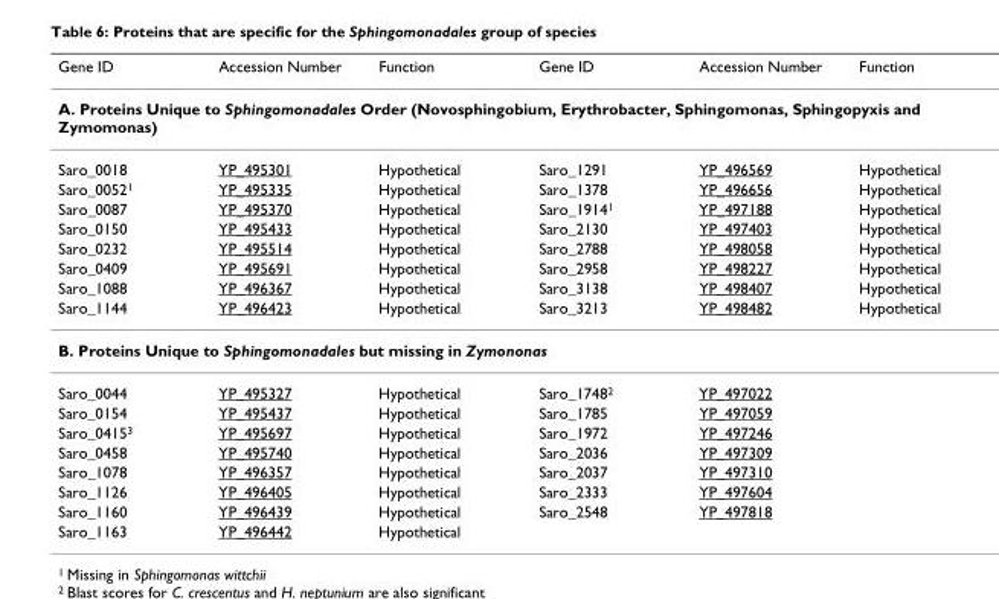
<table><thead><tr><td>Gene ID</td><td>Accession Number</td><td>Function</td><td>Gene ID</td><td>Accession Number</td><td>Function</td></tr></thead><tbody><tr><td colspan="6">A. Proteins Unique to Sphingomonadales Order (Novosphingobium, Erythrobacter, Sphingomonas, Sphingopyxis and Zymomonas)</td></tr><tr><td>Saro_0018</td><td>YP_495301</td><td>Hypothetical</td><td>Saro_1291</td><td>YP_496569</td><td>Hypothetical</td></tr><tr><td>Saro_0052<sup>1</sup></td><td>YP_495335</td><td>Hypothetical</td><td>Saro_1378</td><td>YP_496656</td><td>Hypothetical</td></tr><tr><td>Saro_0087</td><td>YP_495370</td><td>Hypothetical</td><td>Saro_1914<sup>1</sup></td><td>YP_497188</td><td>Hypothetical</td></tr><tr><td>Saro_0150</td><td>YP_495433</td><td>Hypothetical</td><td>Saro_2130</td><td>YP_497403</td><td>Hypothetical</td></tr><tr><td>Saro_0232</td><td>YP_495514</td><td>Hypothetical</td><td>Saro_2788</td><td>YP_498058</td><td>Hypothetical</td></tr><tr><td>Saro_0409</td><td>YP_495691</td><td>Hypothetical</td><td>Saro_2958</td><td>YP_498227</td><td>Hypothetical</td></tr><tr><td>Saro_1088</td><td>YP_496367</td><td>Hypothetical</td><td>Saro_3138</td><td>YP_498407</td><td>Hypothetical</td></tr><tr><td>Saro_1144</td><td>YP_496423</td><td>Hypothetical</td><td>Saro_3213</td><td>YP_498482</td><td>Hypothetical</td></tr><tr><td colspan="6">B. Proteins Unique to Sphingomonadales but missing in Zymononas</td></tr><tr><td>Saro_0044</td><td>YP_495327</td><td>Hypothetical</td><td>Saro_1748<sup>2</sup></td><td>YP_497022</td><td></td></tr><tr><td>Saro_0154</td><td>YP_495437</td><td>Hypothetical</td><td>Saro_1785</td><td>YP_497059</td><td></td></tr><tr><td>Saro_0415<sup>3</sup></td><td>YP_495697</td><td>Hypothetical</td><td>Saro_1972</td><td>YP_497246</td><td></td></tr><tr><td>Saro_0458</td><td>YP_495740</td><td>Hypothetical</td><td>Saro_2036</td><td>YP_497309</td><td></td></tr><tr><td>Saro_1078</td><td>YP_496357</td><td>Hypothetical</td><td>Saro_2037</td><td>YP_497310</td><td></td></tr><tr><td>Saro_1126</td><td>YP_496405</td><td>Hypothetical</td><td>Saro_2333</td><td>YP_497604</td><td></td></tr><tr><td>Saro_1160</td><td>YP_496439</td><td>Hypothetical</td><td>Saro_2548</td><td>YP_497818</td><td></td></tr><tr><td>Saro_1163</td><td>YP_496442</td><td>Hypothetical</td><td></td><td></td><td></td></tr></tbody></table>